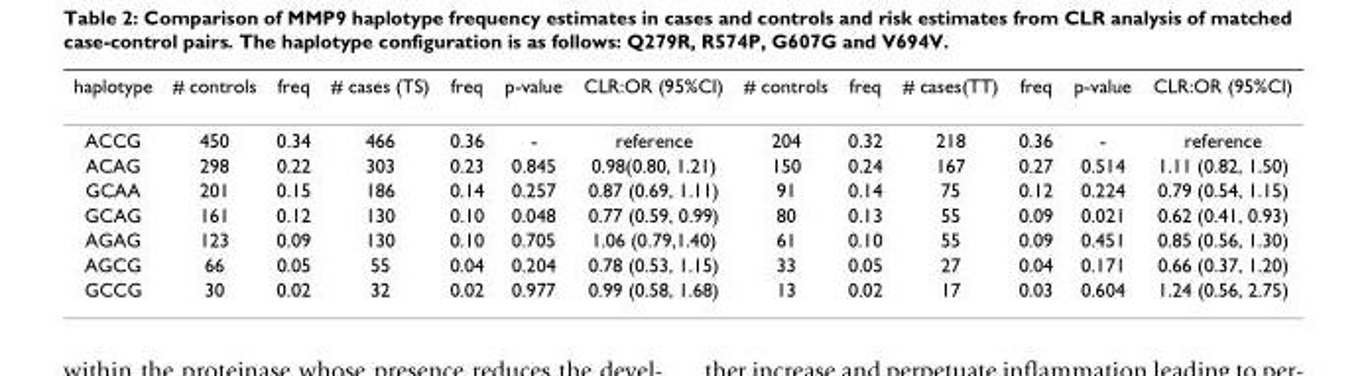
<table><thead><tr><td>haplotype</td><td># controls</td><td>freq</td><td># cases (TS)</td><td>freq</td><td>p-value</td><td>CLR:OR (95%CI)</td><td># controls</td><td>freq</td><td># cases(TT)</td><td>freq</td><td>p-value</td><td>CLR:OR (95%CI)</td></tr></thead><tbody><tr><td>ACCG</td><td>450</td><td>0.34</td><td>466</td><td>0.36</td><td>-</td><td>reference</td><td>204</td><td>0.32</td><td>218</td><td>0.36</td><td>-</td><td>reference</td></tr><tr><td>ACAG</td><td>298</td><td>0.22</td><td>303</td><td>0.23</td><td>0.845</td><td>0.98(0.80, 1.21)</td><td>150</td><td>0.24</td><td>167</td><td>0.27</td><td>0.514</td><td>1.11 (0.82, 1.50)</td></tr><tr><td>GCAA</td><td>201</td><td>0.15</td><td>186</td><td>0.14</td><td>0.257</td><td>0.87 (0.69, 1.11)</td><td>91</td><td>0.14</td><td>75</td><td>0.12</td><td>0.224</td><td>0.79 (0.54, 1.15)</td></tr><tr><td>GCAG</td><td>161</td><td>0.12</td><td>130</td><td>0.10</td><td>0.048</td><td>0.77 (0.59, 0.99)</td><td>80</td><td>0.13</td><td>55</td><td>0.09</td><td>0.021</td><td>0.62 (0.41, 0.93)</td></tr><tr><td>AGAG</td><td>123</td><td>0.09</td><td>130</td><td>0.10</td><td>0.705</td><td>1.06 (0.79,1.40)</td><td>61</td><td>0.10</td><td>55</td><td>0.09</td><td>0.451</td><td>0.85 (0.56, 1.30)</td></tr><tr><td>AGCG</td><td>66</td><td>0.05</td><td>55</td><td>0.04</td><td>0.204</td><td>0.78 (0.53, 1.15)</td><td>33</td><td>0.05</td><td>27</td><td>0.04</td><td>0.171</td><td>0.66 (0.37, 1.20)</td></tr><tr><td>GCCG</td><td>30</td><td>0.02</td><td>32</td><td>0.02</td><td>0.977</td><td>0.99 (0.58, 1.68)</td><td>13</td><td>0.02</td><td>17</td><td>0.03</td><td>0.604</td><td>1.24 (0.56, 2.75)</td></tr></tbody></table>